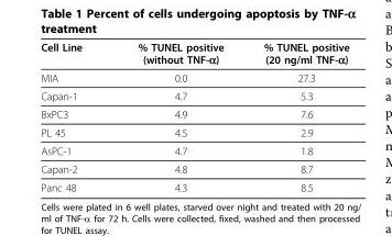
<table><thead><tr><td>Cell Line</td><td>% TUNEL positive (without TNF-α)</td><td>% TUNEL positive (20 ng/ml TNF-α)</td></tr></thead><tbody><tr><td>MIA</td><td>0.0</td><td>27.3</td></tr><tr><td>Capan-1</td><td>4.7</td><td>5.3</td></tr><tr><td>BxPC3</td><td>4.9</td><td>7.6</td></tr><tr><td>PL 45</td><td>4.5</td><td>2.9</td></tr><tr><td>AsPC-1</td><td>4.7</td><td>1.8</td></tr><tr><td>Capan-2</td><td>4.8</td><td>8.7</td></tr><tr><td>Panc 48</td><td>4.3</td><td>8.5</td></tr></tbody></table>